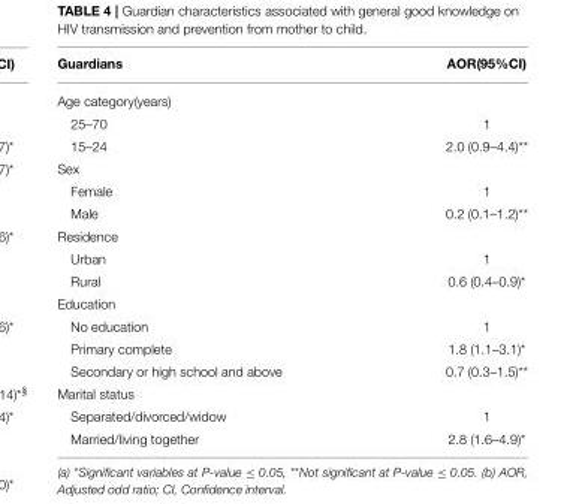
<table><thead><tr><td>Guardians</td><td>AOR(95%CI)</td></tr></thead><tbody><tr><td colspan="2">Age category(years)</td></tr><tr><td>25–70</td><td>1</td></tr><tr><td>15–24</td><td>2.0 (0.9–4.4)**</td></tr><tr><td colspan="2">Sex</td></tr><tr><td>Female</td><td>1</td></tr><tr><td>Male</td><td>0.2 (0.1–1.2)**</td></tr><tr><td colspan="2">Residence</td></tr><tr><td>Urban</td><td>1</td></tr><tr><td>Rural</td><td>0.6 (0.4–0.9)*</td></tr><tr><td colspan="2">Education</td></tr><tr><td>No education</td><td>1</td></tr><tr><td>Primary complete</td><td>1.8 (1.1–3.1)*</td></tr><tr><td>Secondary or high school and above</td><td>0.7 (0.3–1.5)**</td></tr><tr><td colspan="2">Marital status</td></tr><tr><td>Separated/divorced/widow</td><td>1</td></tr><tr><td>Married/living together</td><td>2.8 (1.6–4.9)*</td></tr></tbody></table>